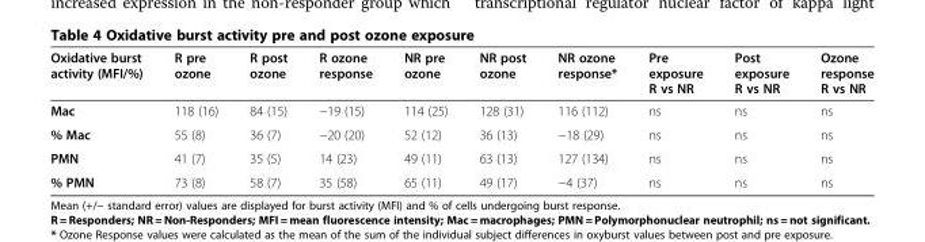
<table><thead><tr><td>Oxidative burst activity (MFI/%)</td><td>R pre ozone</td><td>R post ozone</td><td>R ozone response</td><td>NR pre ozone</td><td>NR post ozone</td><td>NR ozone response*</td><td>Pre exposure R vs NR</td><td>Post exposure R vs NR</td><td>Ozone response R vs NR</td></tr></thead><tbody><tr><td>Mac</td><td>118 (16)</td><td>84 (15)</td><td>−19 (15)</td><td>114 (25)</td><td>128 (31)</td><td>116 (112)</td><td>ns</td><td>ns</td><td>ns</td></tr><tr><td>% Mac</td><td>55 (8)</td><td>36 (7)</td><td>−20 (20)</td><td>52 (12)</td><td>36 (13)</td><td>−18 (29)</td><td>ns</td><td>ns</td><td>ns</td></tr><tr><td>PMN</td><td>41 (7)</td><td>35 (5)</td><td>14 (23)</td><td>49 (11)</td><td>63 (13)</td><td>127 (134)</td><td>ns</td><td>ns</td><td>ns</td></tr><tr><td>% PMN</td><td>73 (8)</td><td>58 (7)</td><td>35 (58)</td><td>65 (11)</td><td>49 (17)</td><td>−4 (37)</td><td>ns</td><td>ns</td><td>ns</td></tr></tbody></table>